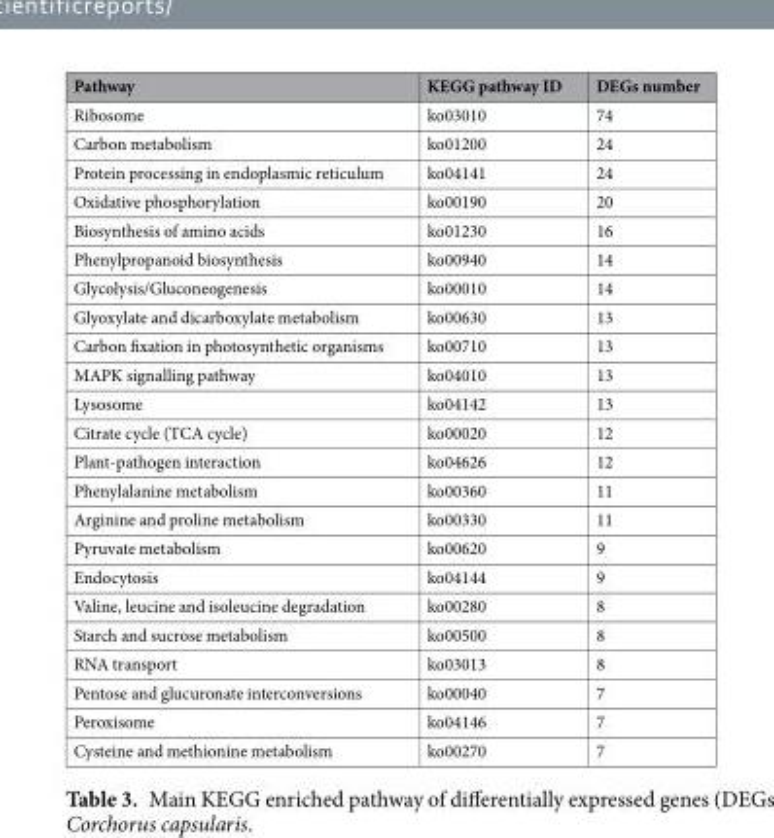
<table><thead><tr><td>Pathway</td><td>KEGG pathway ID</td><td>DEGs number</td></tr></thead><tbody><tr><td>Ribosome</td><td>ko03010</td><td>74</td></tr><tr><td>Carbon metabolism</td><td>ko01200</td><td>24</td></tr><tr><td>Protein processing in endoplasmic reticulum</td><td>ko04141</td><td>24</td></tr><tr><td>Oxidative phosphorylation</td><td>ko00190</td><td>20</td></tr><tr><td>Biosynthesis of amino acids</td><td>ko01230</td><td>16</td></tr><tr><td>Phenylpropanoid biosynthesis</td><td>ko00940</td><td>14</td></tr><tr><td>Glycolysis/Gluconeogenesis</td><td>ko00010</td><td>14</td></tr><tr><td>Glyoxylate and dicarboxylate metabolism</td><td>ko00630</td><td>13</td></tr><tr><td>Carbon fixation in photosynthetic organisms</td><td>ko00710</td><td>13</td></tr><tr><td>MAPK signalling pathway</td><td>ko04010</td><td>13</td></tr><tr><td>Lysosome</td><td>ko04142</td><td>13</td></tr><tr><td>Citrate cycle (TCA cycle)</td><td>ko00020</td><td>12</td></tr><tr><td>Plant-pathogen interaction</td><td>ko04626</td><td>12</td></tr><tr><td>Phenylalanine metabolism</td><td>ko00360</td><td>11</td></tr><tr><td>Arginine and proline metabolism</td><td>ko00330</td><td>11</td></tr><tr><td>Pyruvate metabolism</td><td>ko00620</td><td>9</td></tr><tr><td>Endocytosis</td><td>ko04144</td><td>9</td></tr><tr><td>Valine, leucine and isoleucine degradation</td><td>ko00280</td><td>8</td></tr><tr><td>Starch and sucrose metabolism</td><td>ko00500</td><td>8</td></tr><tr><td>RNA transport</td><td>ko03013</td><td>8</td></tr><tr><td>Pentose and glucuronate interconversions</td><td>ko00040</td><td>7</td></tr><tr><td>Peroxisome</td><td>ko04146</td><td>7</td></tr><tr><td>Cysteine and methionine metabolism</td><td>ko00270</td><td>7</td></tr></tbody></table>